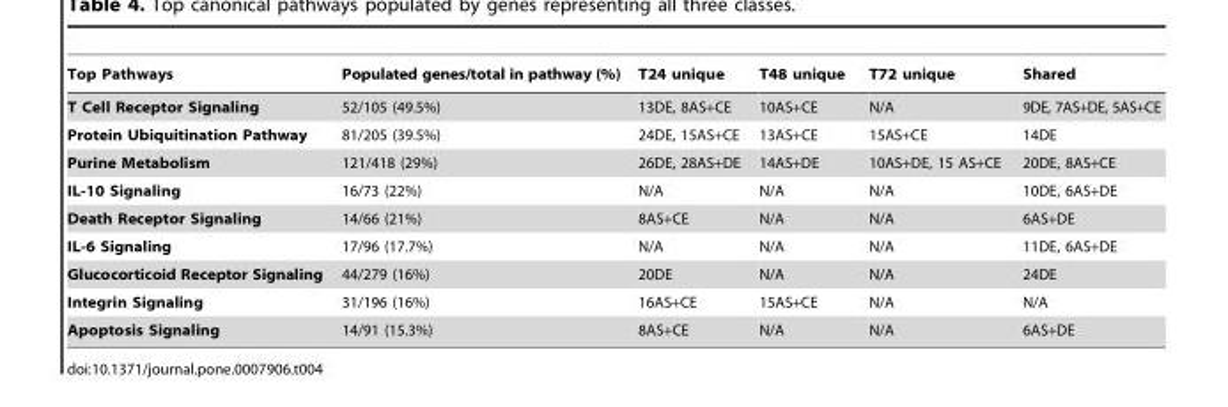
<table><thead><tr><td>Top Pathways</td><td>Populated genes/total in pathway (%)</td><td>T24 unique</td><td>T48 unique</td><td>T72 unique</td><td>Shared</td></tr></thead><tbody><tr><td>T Cell Receptor Signaling</td><td>52/105 (49.5%)</td><td>13DE, 8AS+CE</td><td>10AS+CE</td><td>N/A</td><td>9DE, 7AS+DE, 5AS+CE</td></tr><tr><td>Protein Ubiquitination Pathway</td><td>81/205 (39.5%)</td><td>24DE, 15AS+CE</td><td>13AS+CE</td><td>15AS+CE</td><td>14DE</td></tr><tr><td>Purine Metabolism</td><td>121/418 (29%)</td><td>26DE, 28AS+DE</td><td>14AS+DE</td><td>10AS+DE, 15 AS+CE</td><td>20DE, 8AS+CE</td></tr><tr><td>IL-10 Signaling</td><td>16/73 (22%)</td><td>N/A</td><td>N/A</td><td>N/A</td><td>10DE, 6AS+DE</td></tr><tr><td>Death Receptor Signaling</td><td>14/66 (21%)</td><td>8AS+CE</td><td>N/A</td><td>N/A</td><td>6AS+DE</td></tr><tr><td>IL-6 Signaling</td><td>17/96 (17.7%)</td><td>N/A</td><td>N/A</td><td>N/A</td><td>11DE, 6AS+DE</td></tr><tr><td>Glucocorticoid Receptor Signaling</td><td>44/279 (16%)</td><td>20DE</td><td>N/A</td><td>N/A</td><td>24DE</td></tr><tr><td>Integrin Signaling</td><td>31/196 (16%)</td><td>16AS+CE</td><td>15AS+CE</td><td>N/A</td><td>N/A</td></tr><tr><td>Apoptosis Signaling</td><td>14/91 (15.3%)</td><td>8AS+CE</td><td>N/A</td><td>N/A</td><td>6AS+DE</td></tr></tbody></table>